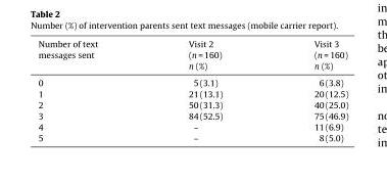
<table><thead><tr><td>Number of text messages sent</td><td>Visit 2 (n = 160) n (%)</td><td>Visit 3 (n = 160) n (%)</td></tr></thead><tbody><tr><td>0</td><td>5 (3.1)</td><td>6 (3.8)</td></tr><tr><td>1</td><td>21 (13.1)</td><td>20 (12.5)</td></tr><tr><td>2</td><td>50 (31.3)</td><td>40 (25.0)</td></tr><tr><td>3</td><td>84 (52.5)</td><td>75 (46.9)</td></tr><tr><td>4</td><td>–</td><td>11 (6.9)</td></tr><tr><td>5</td><td>–</td><td>8 (5.0)</td></tr></tbody></table>